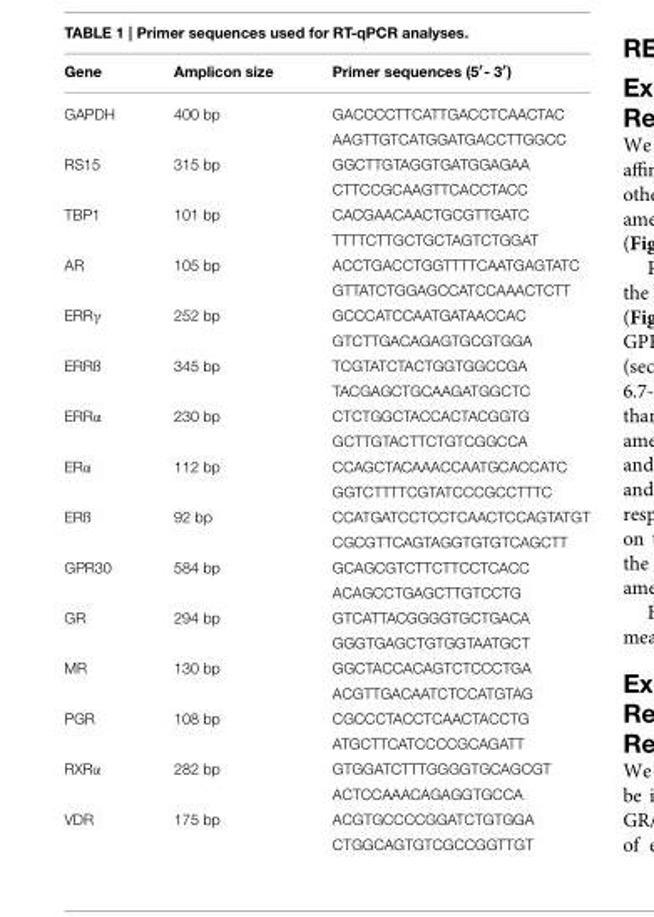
<table><thead><tr><td>Gene</td><td>Amplicon size</td><td>Primer sequences (5′- 3′)</td></tr></thead><tbody><tr><td rowspan="2">GAPDH</td><td>400 bp</td><td>GACCCCTTCATTGACCTCAACTAC</td></tr><tr><td></td><td>AAGTTGTCATGGATGACCTTGGCC</td></tr><tr><td rowspan="2">RS15</td><td>315 bp</td><td>GGCTTGTAGGTGATGGAGAA</td></tr><tr><td></td><td>CTTCCGCAAGTTCACCTACC</td></tr><tr><td rowspan="2">TBP1</td><td>101 bp</td><td>CACGAACAACTGCGTTGATC</td></tr><tr><td></td><td>TTTTCTTGCTGCTAGTCTGGAT</td></tr><tr><td rowspan="2">AR</td><td>105 bp</td><td>ACCTGACCTGGTTTTCAATGAGTATC</td></tr><tr><td></td><td>GTTATCTGGAGCCATCCAAACTCTT</td></tr><tr><td rowspan="2">ERRγ</td><td>252 bp</td><td>GCCCATCCAATGATAACCAC</td></tr><tr><td></td><td>GTCTTGACAGAGTGCGTGGA</td></tr><tr><td rowspan="2">ERRß</td><td>345 bp</td><td>TCGTATCTACTGGTGGCCGA</td></tr><tr><td></td><td>TACGAGCTGCAAGATGGCTC</td></tr><tr><td rowspan="2">ERRα</td><td>230 bp</td><td>CTCTGGCTACCACTACGGTG</td></tr><tr><td></td><td>GCTTGTACTTCTGTCGGCCA</td></tr><tr><td rowspan="2">ERα</td><td>112 bp</td><td>CCAGCTACAAACCAATGCACCATC</td></tr><tr><td></td><td>GGTCTTTTCGTATCCCGCCTTTC</td></tr><tr><td rowspan="2">ERß</td><td>92 bp</td><td>CCATGATCCTCCTCAACTCCAGTATGT</td></tr><tr><td></td><td>CGCGTTCAGTAGGTGTGTCAGCTT</td></tr><tr><td rowspan="2">GPR30</td><td>584 bp</td><td>GCAGCGTCTTCTTCCTCACC</td></tr><tr><td></td><td>ACAGCCTGAGCTTGTCCTG</td></tr><tr><td rowspan="2">GR</td><td>294 bp</td><td>GTCATTACGGGGTGCTGACA</td></tr><tr><td></td><td>GGGTGAGCTGTGGTAATGCT</td></tr><tr><td rowspan="2">MR</td><td>130 bp</td><td>GGCTACCACAGTCTCCCTGA</td></tr><tr><td></td><td>ACGTTGACAATCTCCATGTAG</td></tr><tr><td rowspan="2">PGR</td><td>108 bp</td><td>CGCCCTACCTCAACTACCTG</td></tr><tr><td></td><td>ATGCTTCATCCCCGCAGATT</td></tr><tr><td rowspan="2">RXRα</td><td>282 bp</td><td>GTGGATCTTTGGGGTGCAGCGT</td></tr><tr><td></td><td>ACTCCAAACAGAGGTGCCA</td></tr><tr><td rowspan="2">VDR</td><td>175 bp</td><td>ACGTGCCCCGGATCTGTGGA</td></tr><tr><td></td><td>CTGGCAGTGTCGCCGGTTGT</td></tr></tbody></table>